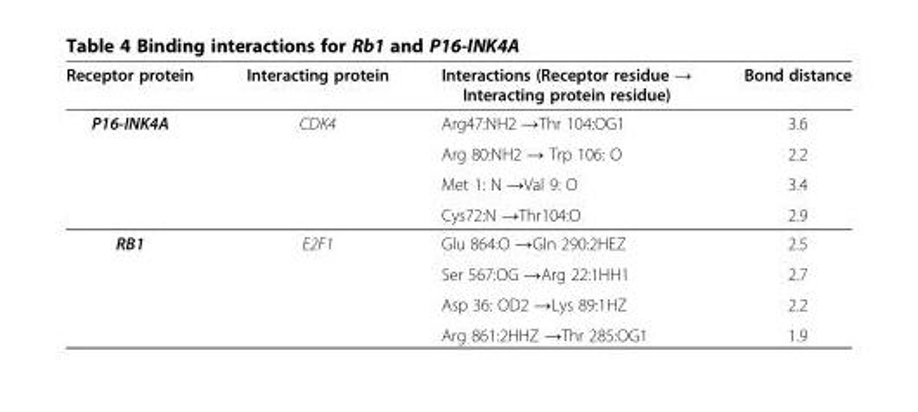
<table><thead><tr><td>Receptor protein</td><td>Interacting protein</td><td>Interactions (Receptor residue → Interacting protein residue)</td><td>Bond distance</td></tr></thead><tbody><tr><td rowspan="4">P16-INK4A</td><td rowspan="4">CDK4</td><td>Arg47:NH2 →Thr 104:OG1</td><td>3.6</td></tr><tr><td>Arg 80:NH2 → Trp 106: O</td><td>2.2</td></tr><tr><td>Met 1: N →Val 9: O</td><td>3.4</td></tr><tr><td>Cys72:N →Thr104:O</td><td>2.9</td></tr><tr><td rowspan="4">RB1</td><td rowspan="4">E2F1</td><td>Glu 864:O →Gln 290:2HEZ</td><td>2.5</td></tr><tr><td>Ser 567:OG →Arg 22:1HH1</td><td>2.7</td></tr><tr><td>Asp 36: OD2 →Lys 89:1HZ</td><td>2.2</td></tr><tr><td>Arg 861:2HHZ →Thr 285:OG1</td><td>1.9</td></tr></tbody></table>